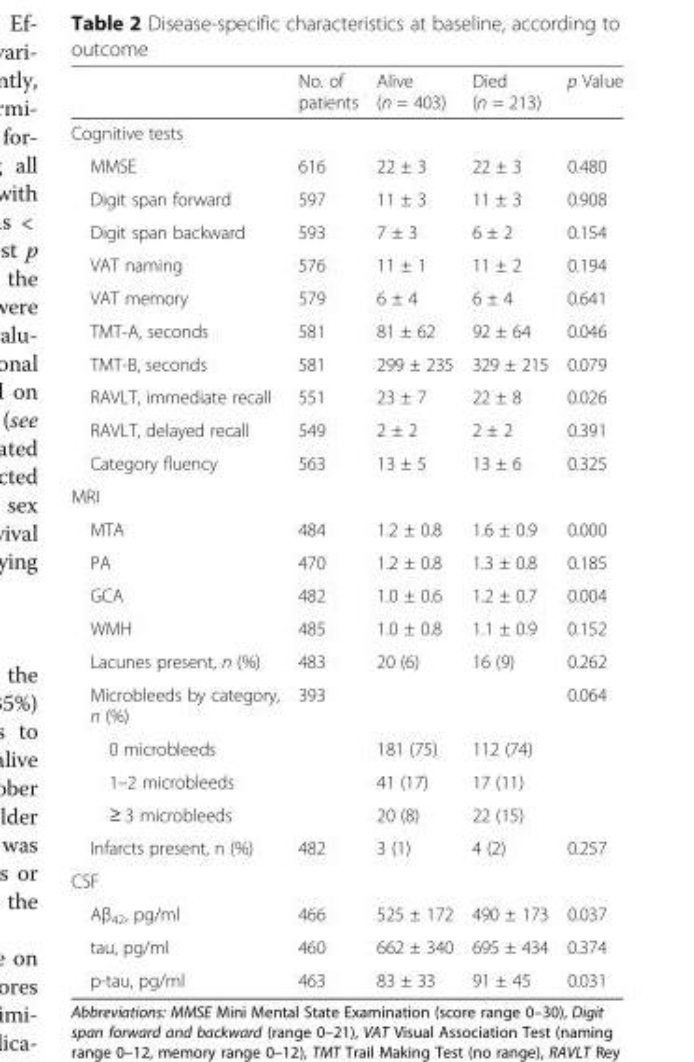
<table><thead><tr><td></td><td>No. of patients</td><td>Alive (n = 403)</td><td>Died (n = 213)</td><td>p Value</td></tr></thead><tbody><tr><td colspan="5">Cognitive tests</td></tr><tr><td>MMSE</td><td>616</td><td>22 ± 3</td><td>22 ± 3</td><td>0.480</td></tr><tr><td>Digit span forward</td><td>597</td><td>11 ± 3</td><td>11 ± 3</td><td>0.908</td></tr><tr><td>Digit span backward</td><td>593</td><td>7 ± 3</td><td>6 ± 2</td><td>0.154</td></tr><tr><td>VAT naming</td><td>576</td><td>11 ± 1</td><td>11 ± 2</td><td>0.194</td></tr><tr><td>VAT memory</td><td>579</td><td>6 ± 4</td><td>6 ± 4</td><td>0.641</td></tr><tr><td>TMT-A, seconds</td><td>581</td><td>81 ± 62</td><td>92 ± 64</td><td>0.046</td></tr><tr><td>TMT-B, seconds</td><td>581</td><td>299 ± 235</td><td>329 ± 215</td><td>0.079</td></tr><tr><td>RAVLT, immediate recall</td><td>551</td><td>23 ± 7</td><td>22 ± 8</td><td>0.026</td></tr><tr><td>RAVLT, delayed recall</td><td>549</td><td>2 ± 2</td><td>2 ± 2</td><td>0.391</td></tr><tr><td>Category fluency</td><td>563</td><td>13 ± 5</td><td>13 ± 6</td><td>0.325</td></tr><tr><td colspan="5">MRI</td></tr><tr><td>MTA</td><td>484</td><td>1.2 ± 0.8</td><td>1.6 ± 0.9</td><td>0.000</td></tr><tr><td>PA</td><td>470</td><td>1.2 ± 0.8</td><td>1.3 ± 0.8</td><td>0.185</td></tr><tr><td>GCA</td><td>482</td><td>1.0 ± 0.6</td><td>1.2 ± 0.7</td><td>0.004</td></tr><tr><td>WMH</td><td>485</td><td>1.0 ± 0.8</td><td>1.1 ± 0.9</td><td>0.152</td></tr><tr><td>Lacunes present, n (%)</td><td>483</td><td>20 (6)</td><td>16 (9)</td><td>0.262</td></tr><tr><td>Microbleeds by category, n (%)</td><td>393</td><td></td><td></td><td>0.064</td></tr><tr><td>0 microbleeds</td><td></td><td>181 (75)</td><td>112 (74)</td><td></td></tr><tr><td>1–2 microbleeds</td><td></td><td>41 (17)</td><td>17 (11)</td><td></td></tr><tr><td>≥ 3 microbleeds</td><td></td><td>20 (8)</td><td>22 (15)</td><td></td></tr><tr><td>Infarcts present, n (%)</td><td>482</td><td>3 (1)</td><td>4 (2)</td><td>0.257</td></tr><tr><td colspan="5">CSF</td></tr><tr><td>Aβ<sub>42</sub>, pg/ml</td><td>466</td><td>525 ± 172</td><td>490 ± 173</td><td>0.037</td></tr><tr><td>tau, pg/ml</td><td>460</td><td>662 ± 340</td><td>695 ± 434</td><td>0.374</td></tr><tr><td>p-tau, pg/ml</td><td>463</td><td>83 ± 33</td><td>91 ± 45</td><td>0.031</td></tr></tbody></table>